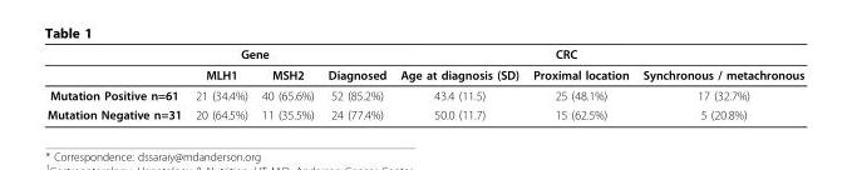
<table><thead><tr><td rowspan="2"></td><td colspan="2">Gene</td><td colspan="4">CRC</td></tr><tr><td>MLH1</td><td>MSH2</td><td>Diagnosed</td><td>Age at diagnosis (SD)</td><td>Proximal location</td><td>Synchronous / metachronous</td></tr></thead><tbody><tr><td>Mutation Positive n=61</td><td>21 (34.4%)</td><td>40 (65.6%)</td><td>52 (85.2%)</td><td>43.4 (11.5)</td><td>25 (48.1%)</td><td>17 (32.7%)</td></tr><tr><td>Mutation Negative n=31</td><td>20 (64.5%)</td><td>11 (35.5%)</td><td>24 (77.4%)</td><td>50.0 (11.7)</td><td>15 (62.5%)</td><td>5 (20.8%)</td></tr></tbody></table>